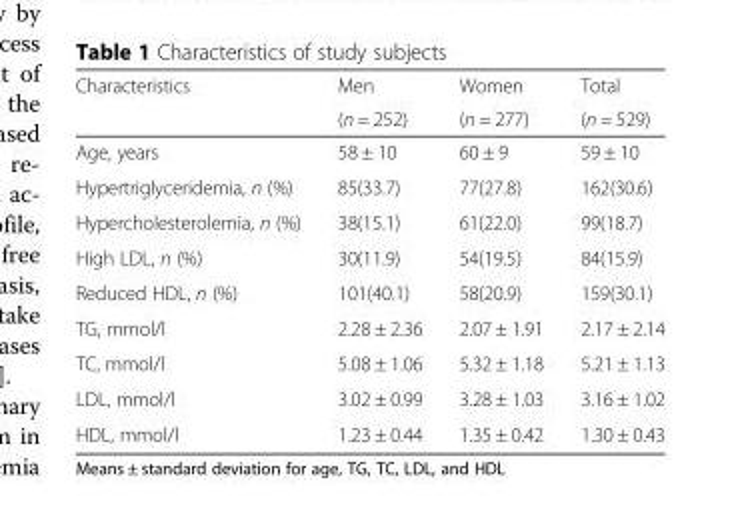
<table><thead><tr><td rowspan="2">Characteristics</td><td rowspan="2">Men (n = 252)</td><td rowspan="2">Women (n = 277)</td><td rowspan="2">Total (n = 529)</td></tr><tr></tr></thead><tbody><tr><td>Age, years</td><td>58 ± 10</td><td>60 ± 9</td><td>59 ± 10</td></tr><tr><td>Hypertriglyceridemia, n (%)</td><td>85(33.7)</td><td>77(27.8)</td><td>162(30.6)</td></tr><tr><td>Hypercholesterolemia, n (%)</td><td>38(15.1)</td><td>61(22.0)</td><td>99(18.7)</td></tr><tr><td>High LDL, n (%)</td><td>30(11.9)</td><td>54(19.5)</td><td>84(15.9)</td></tr><tr><td>Reduced HDL, n (%)</td><td>101(40.1)</td><td>58(20.9)</td><td>159(30.1)</td></tr><tr><td>TG, mmol/l</td><td>2.28 ± 2.36</td><td>2.07 ± 1.91</td><td>2.17 ± 2.14</td></tr><tr><td>TC, mmol/l</td><td>5.08 ± 1.06</td><td>5.32 ± 1.18</td><td>5.21 ± 1.13</td></tr><tr><td>LDL, mmol/l</td><td>3.02 ± 0.99</td><td>3.28 ± 1.03</td><td>3.16 ± 1.02</td></tr><tr><td>HDL, mmol/l</td><td>1.23 ± 0.44</td><td>1.35 ± 0.42</td><td>1.30 ± 0.43</td></tr></tbody></table>